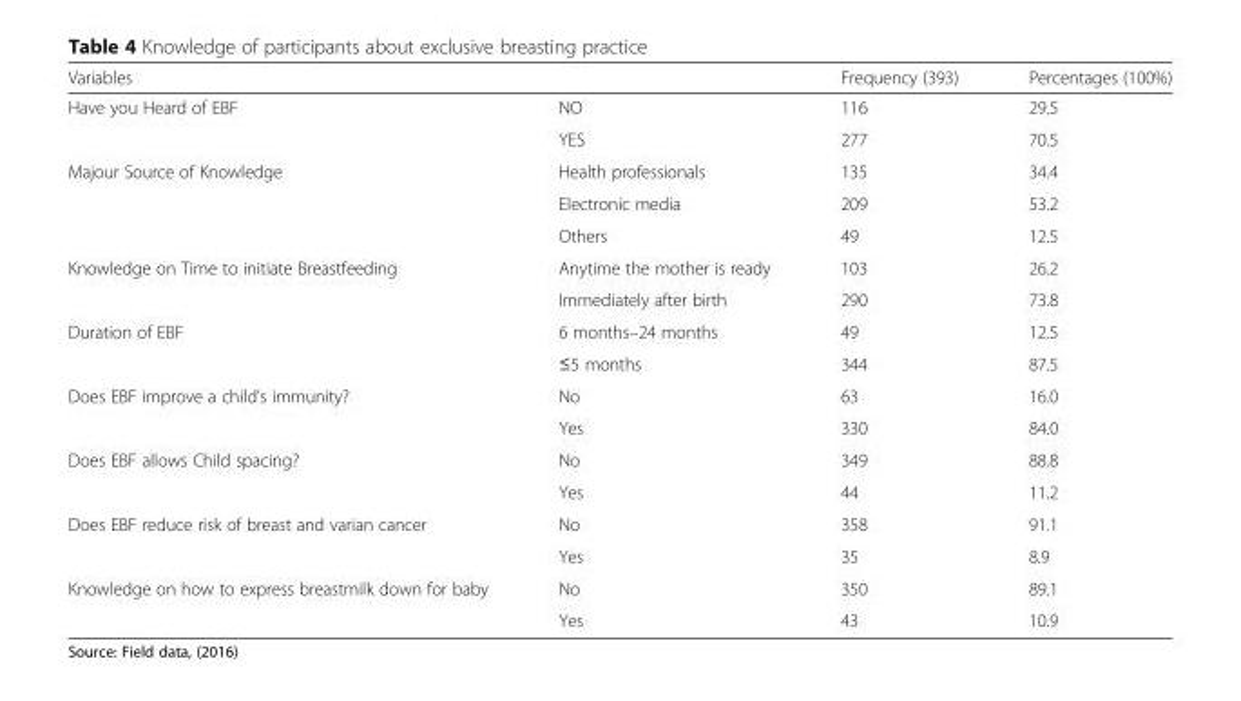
<table><thead><tr><td>Variables</td><td></td><td>Frequency (393)</td><td>Percentages (100%)</td></tr></thead><tbody><tr><td rowspan="2">Have you Heard of EBF</td><td>NO</td><td>116</td><td>29.5</td></tr><tr><td>YES</td><td>277</td><td>70.5</td></tr><tr><td rowspan="3">Majour Source of Knowledge</td><td>Health professionals</td><td>135</td><td>34.4</td></tr><tr><td>Electronic media</td><td>209</td><td>53.2</td></tr><tr><td>Others</td><td>49</td><td>12.5</td></tr><tr><td rowspan="2">Knowledge on Time to initiate Breastfeeding</td><td>Anytime the mother is ready</td><td>103</td><td>26.2</td></tr><tr><td>Immediately after birth</td><td>290</td><td>73.8</td></tr><tr><td rowspan="2">Duration of EBF</td><td>6 months–24 months</td><td>49</td><td>12.5</td></tr><tr><td>≤5 months</td><td>344</td><td>87.5</td></tr><tr><td rowspan="2">Does EBF improve a child’s immunity?</td><td>No</td><td>63</td><td>16.0</td></tr><tr><td>Yes</td><td>330</td><td>84.0</td></tr><tr><td rowspan="2">Does EBF allows Child spacing?</td><td>No</td><td>349</td><td>88.8</td></tr><tr><td>Yes</td><td>44</td><td>11.2</td></tr><tr><td rowspan="2">Does EBF reduce risk of breast and varian cancer</td><td>No</td><td>358</td><td>91.1</td></tr><tr><td>Yes</td><td>35</td><td>8.9</td></tr><tr><td rowspan="2">Knowledge on how to express breastmilk down for baby</td><td>No</td><td>350</td><td>89.1</td></tr><tr><td>Yes</td><td>43</td><td>10.9</td></tr></tbody></table>